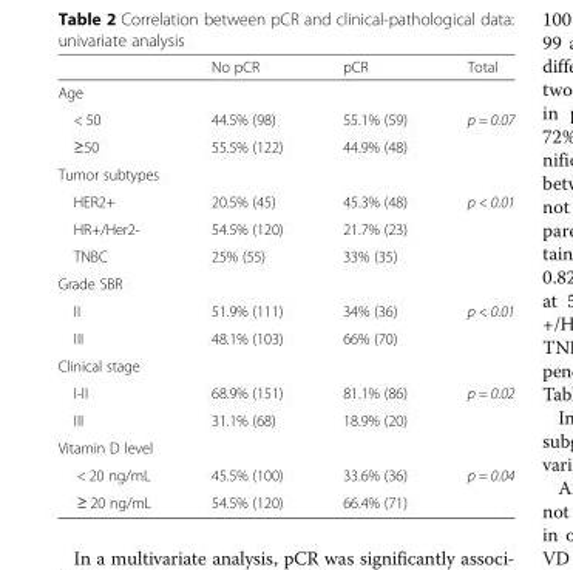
<table><thead><tr><td></td><td>No pCR</td><td>pCR</td><td>Total</td></tr></thead><tbody><tr><td colspan="4">Age</td></tr><tr><td>&lt; 50</td><td>44.5% (98)</td><td>55.1% (59)</td><td>p = 0.07</td></tr><tr><td>≥50</td><td>55.5% (122)</td><td>44.9% (48)</td><td></td></tr><tr><td colspan="4">Tumor subtypes</td></tr><tr><td>HER2+</td><td>20.5% (45)</td><td>45.3% (48)</td><td>p &lt; 0.01</td></tr><tr><td>HR+/Her2-</td><td>54.5% (120)</td><td>21.7% (23)</td><td></td></tr><tr><td>TNBC</td><td>25% (55)</td><td>33% (35)</td><td></td></tr><tr><td colspan="4">Grade SBR</td></tr><tr><td>II</td><td>51.9% (111)</td><td>34% (36)</td><td>p &lt; 0.01</td></tr><tr><td>III</td><td>48.1% (103)</td><td>66% (70)</td><td></td></tr><tr><td colspan="4">Clinical stage</td></tr><tr><td>I-II</td><td>68.9% (151)</td><td>81.1% (86)</td><td>p = 0.02</td></tr><tr><td>III</td><td>31.1% (68)</td><td>18.9% (20)</td><td></td></tr><tr><td colspan="4">Vitamin D level</td></tr><tr><td>&lt; 20 ng/mL</td><td>45.5% (100)</td><td>33.6% (36)</td><td>p = 0.04</td></tr><tr><td>≥ 20 ng/mL</td><td>54.5% (120)</td><td>66.4% (71)</td><td></td></tr></tbody></table>